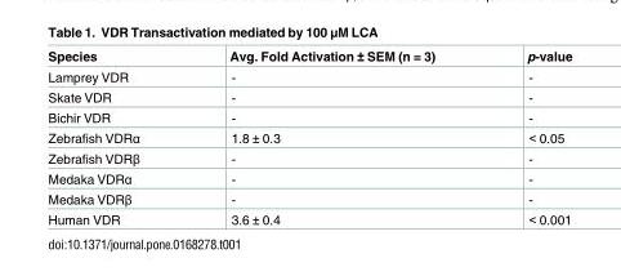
<table><thead><tr><td>Species</td><td>Avg. Fold Activation ± SEM (n = 3)</td><td>p-value</td></tr></thead><tbody><tr><td>Lamprey VDR</td><td>-</td><td>-</td></tr><tr><td>Skate VDR</td><td>-</td><td>-</td></tr><tr><td>Bichir VDR</td><td>-</td><td>-</td></tr><tr><td>Zebrafish VDRα</td><td>1.8 ± 0.3</td><td>&lt; 0.05</td></tr><tr><td>Zebrafish VDRβ</td><td>-</td><td>-</td></tr><tr><td>Medaka VDRα</td><td>-</td><td>-</td></tr><tr><td>Medaka VDRβ</td><td>-</td><td>-</td></tr><tr><td>Human VDR</td><td>3.6 ± 0.4</td><td>&lt; 0.001</td></tr></tbody></table>